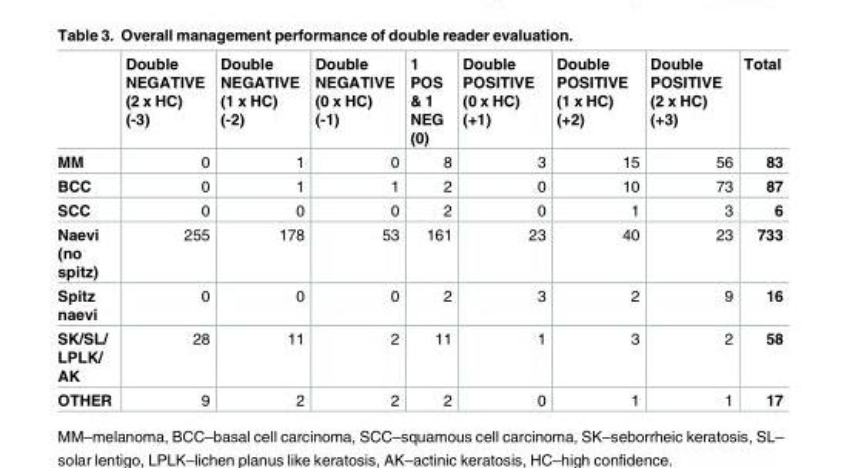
<table><thead><tr><td></td><td>Double NEGATIVE (2 x HC) (-3)</td><td>Double NEGATIVE (1 x HC) (-2)</td><td>Double NEGATIVE (0 x HC) (-1)</td><td>1 POS &amp; 1 NEG (0)</td><td>Double POSITIVE (0 x HC) (+1)</td><td>Double POSITIVE (1 x HC) (+2)</td><td>Double POSITIVE (2 x HC) (+3)</td><td>Total</td></tr></thead><tbody><tr><td>MM</td><td>0</td><td>1</td><td>0</td><td>8</td><td>3</td><td>15</td><td>56</td><td>83</td></tr><tr><td>BCC</td><td>0</td><td>1</td><td>1</td><td>2</td><td>0</td><td>10</td><td>73</td><td>87</td></tr><tr><td>SCC</td><td>0</td><td>0</td><td>0</td><td>2</td><td>0</td><td>1</td><td>3</td><td>6</td></tr><tr><td>Naevi (no spitz)</td><td>255</td><td>178</td><td>53</td><td>161</td><td>23</td><td>40</td><td>23</td><td>733</td></tr><tr><td>Spitz naevi</td><td>0</td><td>0</td><td>0</td><td>2</td><td>3</td><td>2</td><td>9</td><td>16</td></tr><tr><td>SK/SL/ LPLK/ AK</td><td>28</td><td>11</td><td>2</td><td>11</td><td>1</td><td>3</td><td>2</td><td>58</td></tr><tr><td>OTHER</td><td>9</td><td>2</td><td>2</td><td>2</td><td>0</td><td>1</td><td>1</td><td>17</td></tr></tbody></table>